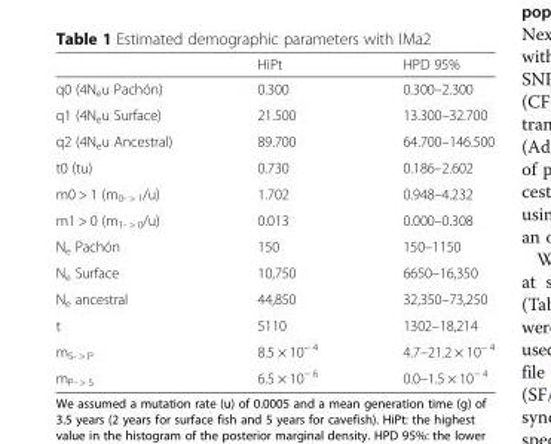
<table><thead><tr><td></td><td>HiPt</td><td>HPD 95%</td></tr></thead><tbody><tr><td>q0 (4N<sub>e</sub>u Pachón)</td><td>0.300</td><td>0.300–2.300</td></tr><tr><td>q1 (4N<sub>e</sub>u Surface)</td><td>21.500</td><td>13.300–32.700</td></tr><tr><td>q2 (4N<sub>e</sub>u Ancestral)</td><td>89.700</td><td>64.700–146.500</td></tr><tr><td>t0 (tu)</td><td>0.730</td><td>0.186–2.602</td></tr><tr><td>m0 &gt; 1 (m<sub>0- &gt; 1</sub>/u)</td><td>1.702</td><td>0.948–4.232</td></tr><tr><td>m1 &gt; 0 (m<sub>1- &gt; 0</sub>/u)</td><td>0.013</td><td>0.000–0.308</td></tr><tr><td>N<sub>e</sub> Pachón</td><td>150</td><td>150–1150</td></tr><tr><td>N<sub>e</sub> Surface</td><td>10,750</td><td>6650–16,350</td></tr><tr><td>N<sub>e</sub> ancestral</td><td>44,850</td><td>32,350–73,250</td></tr><tr><td>t</td><td>5110</td><td>1302–18,214</td></tr><tr><td>m<sub>S- &gt; P</sub></td><td>8.5 × 10<sup>− 4</sup></td><td>4.7–21.2 × 10<sup>− 4</sup></td></tr><tr><td>m<sub>P- &gt; S</sub></td><td>6.5 × 10<sup>− 6</sup></td><td>0.0–1.5 × 10<sup>− 4</sup></td></tr></tbody></table>